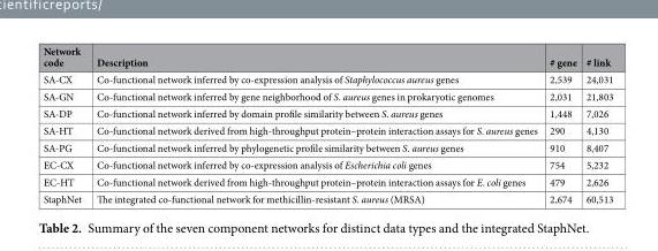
<table><thead><tr><td>Network code</td><td>Description</td><td># gene</td><td># link</td></tr></thead><tbody><tr><td>SA-CX</td><td>Co-functional network inferred by co-expression analysis of Staphylococcus aureus genes</td><td>2,539</td><td>24,031</td></tr><tr><td>SA-GN</td><td>Co-functional network inferred by gene neighborhood of S. aureus genes in prokaryotic genomes</td><td>2,031</td><td>21,803</td></tr><tr><td>SA-DP</td><td>Co-functional network inferred by domain profile similarity between S. aureus genes</td><td>1,448</td><td>7,026</td></tr><tr><td>SA-HT</td><td>Co-functional network derived from high-throughput protein–protein interaction assays for S. aureus genes</td><td>290</td><td>4,130</td></tr><tr><td>SA-PG</td><td>Co-functional network inferred by phylogenetic profile similarity between S. aureus genes</td><td>910</td><td>8,407</td></tr><tr><td>EC-CX</td><td>Co-functional network inferred by co-expression analysis of Escherichia coli genes</td><td>754</td><td>5,232</td></tr><tr><td>EC-HT</td><td>Co-functional network derived from high-throughput protein–protein interaction assays for E. coli genes</td><td>479</td><td>2,626</td></tr><tr><td>StaphNet</td><td>The integrated co-functional network for methicillin-resistant S. aureus (MRSA)</td><td>2,674</td><td>60,513</td></tr></tbody></table>